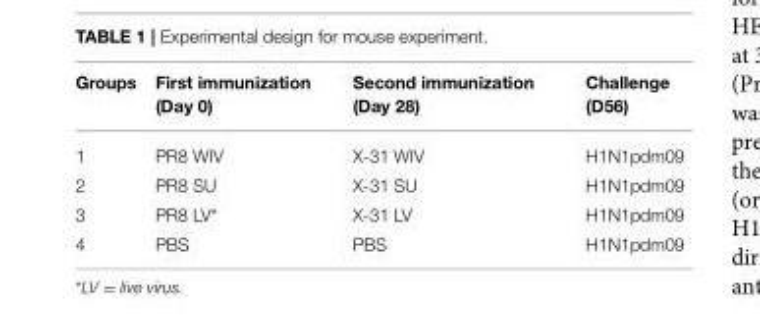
<table><thead><tr><td>Groups</td><td>First immunization (Day 0)</td><td>Second immunization (Day 28)</td><td>Challenge (D56)</td></tr></thead><tbody><tr><td>1</td><td>PR8 WIV</td><td>X-31 WIV</td><td>H1N1pdm09</td></tr><tr><td>2</td><td>PR8 SU</td><td>X-31 SU</td><td>H1N1pdm09</td></tr><tr><td>3</td><td>PR8 LV*</td><td>X-31 LV</td><td>H1N1pdm09</td></tr><tr><td>4</td><td>PBS</td><td>PBS</td><td>H1N1pdm09</td></tr></tbody></table>